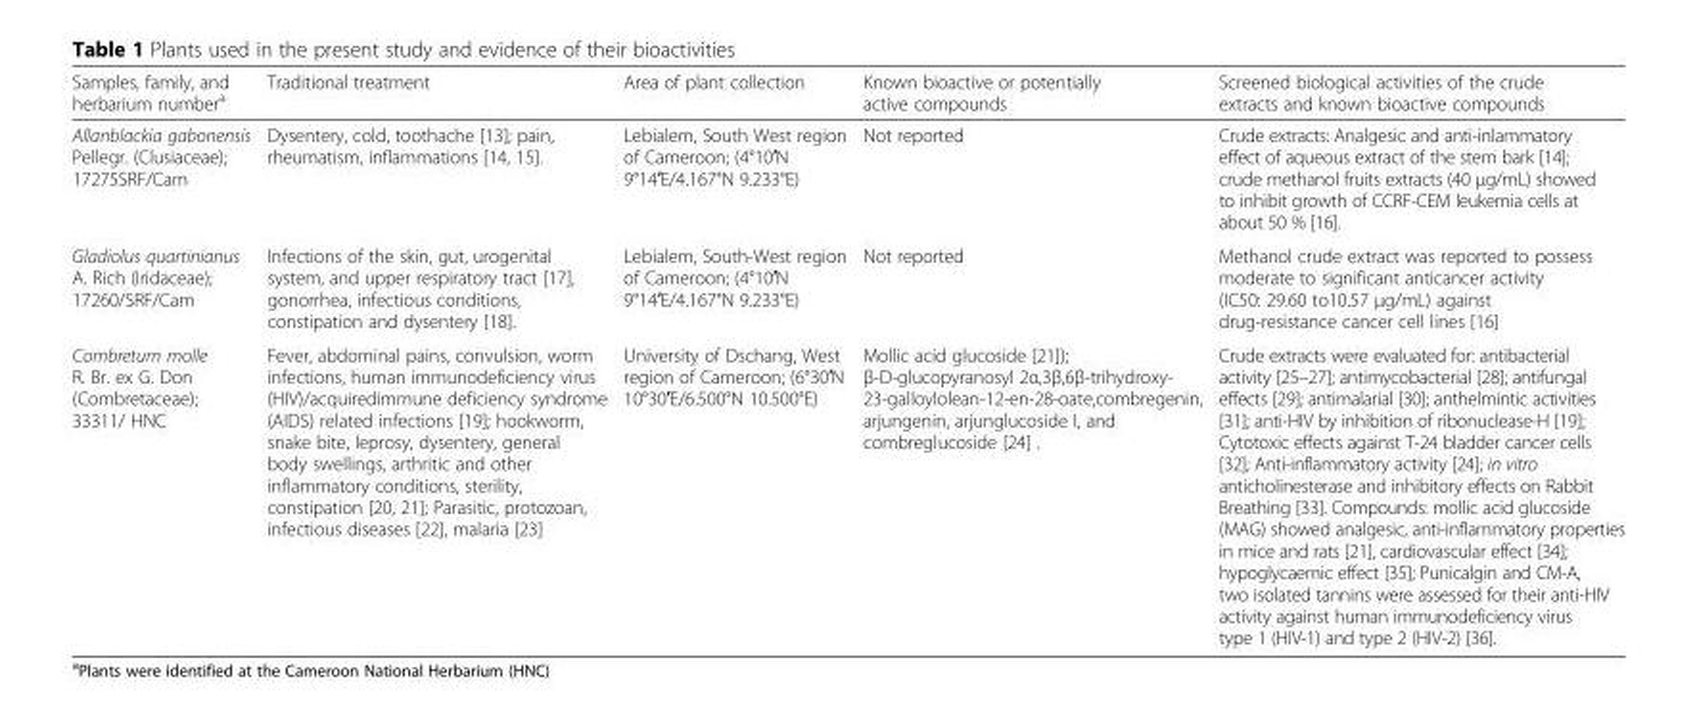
<table><thead><tr><td>Samples, family, and herbarium number<sup>a</sup></td><td>Traditional treatment</td><td>Area of plant collection</td><td>Known bioactive or potentially active compounds</td><td>Screened biological activities of the crude extracts and known bioactive compounds</td></tr></thead><tbody><tr><td>Allanblackia gabonensis Pellegr. (Clusiaceae); 17275SRF/Cam</td><td>Dysentery, cold, toothache [13]; pain, rheumatism, inflammations [14, 15].</td><td>Lebialem, South West region of Cameroon; (4°10′N 9°14′E/4.167°N 9.233°E)</td><td>Not reported</td><td>Crude extracts: Analgesic and anti-inlammatory effect of aqueous extract of the stem bark [14]; crude methanol fruits extracts (40 μg/mL) showed to inhibit growth of CCRF-CEM leukemia cells at about 50 % [16].</td></tr><tr><td>Gladiolus quartinianus A. Rich (Iridaceae); 17260/SRF/Cam</td><td>Infections of the skin, gut, urogenital system, and upper respiratory tract [17], gonorrhea, infectious conditions, constipation and dysentery [18].</td><td>Lebialem, South-West region of Cameroon; (4°10′N 9°14′E/4.167°N 9.233°E)</td><td>Not reported</td><td>Methanol crude extract was reported to possess moderate to significant anticancer activity (IC50: 29.60 to10.57 μg/mL) against drug-resistance cancer cell lines [16]</td></tr><tr><td>Combretum molle R. Br. ex G. Don (Combretaceae); 33311/ HNC</td><td>Fever, abdominal pains, convulsion, worm infections, human immunodeficiency virus (HIV)/acquiredimmune deficiency syndrome (AIDS) related infections [19]; hookworm, snake bite, leprosy, dysentery, general body swellings, arthritic and other inflammatory conditions, sterility, constipation [20, 21]; Parasitic, protozoan, infectious diseases [22], malaria [23]</td><td>University of Dschang, West region of Cameroon; (6°30′N 10°30′E/6.500°N 10.500°E)</td><td>Mollic acid glucoside [21]); β-D-glucopyranosyl 2α,3β,6β-trihydroxy- 23-galloylolean-12-en-28-oate,combregenin, arjungenin, arjunglucoside I, and combreglucoside [24] .</td><td>Crude extracts were evaluated for: antibacterial activity [25–27]; antimycobacterial [28]; antifungal effects [29]; antimalarial [30]; anthelmintic activities [31]; anti-HIV by inhibition of ribonuclease-H [19]; Cytotoxic effects against T-24 bladder cancer cells [32]; Anti-inflammatory activity [24]; in vitro anticholinesterase and inhibitory effects on Rabbit Breathing [33]. Compounds: mollic acid glucoside (MAG) showed analgesic, anti-inflammatory properties in mice and rats [21], cardiovascular effect [34]; hypoglycaemic effect [35]; Punicalgin and CM-A, two isolated tannins were assessed for their anti-HIV activity against human immunodeficiency virus type 1 (HIV-1) and type 2 (HIV-2) [36].</td></tr></tbody></table>